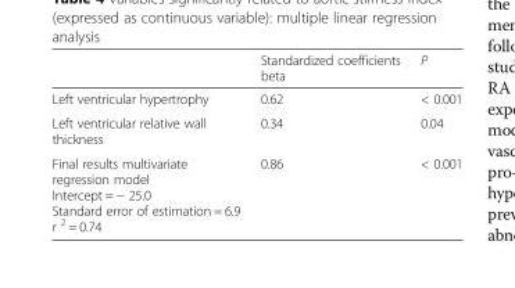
<table><thead><tr><td></td><td>Standardized coefficients beta</td><td>P</td></tr></thead><tbody><tr><td>Left ventricular hypertrophy</td><td>0.62</td><td>&lt; 0.001</td></tr><tr><td>Left ventricular relative wall thickness</td><td>0.34</td><td>0.04</td></tr><tr><td>Final results multivariate regression model Intercept = − 25.0 Standard error of estimation = 6.9 r <sup>2</sup> = 0.74</td><td>0.86</td><td>&lt; 0.001</td></tr></tbody></table>